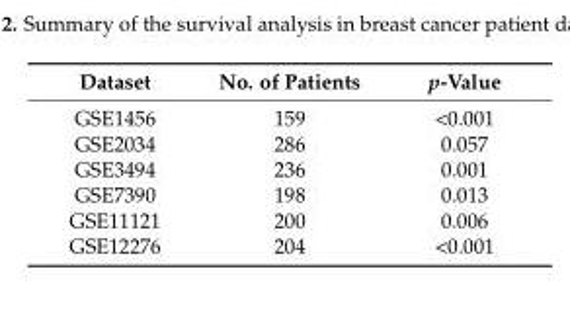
<table><thead><tr><td>Dataset</td><td>No. of Patients</td><td>p-Value</td></tr></thead><tbody><tr><td>GSE1456</td><td>159</td><td>&lt;0.001</td></tr><tr><td>GSE2034</td><td>286</td><td>0.057</td></tr><tr><td>GSE3494</td><td>236</td><td>0.001</td></tr><tr><td>GSE7390</td><td>198</td><td>0.013</td></tr><tr><td>GSE11121</td><td>200</td><td>0.006</td></tr><tr><td>GSE12276</td><td>204</td><td>&lt;0.001</td></tr></tbody></table>